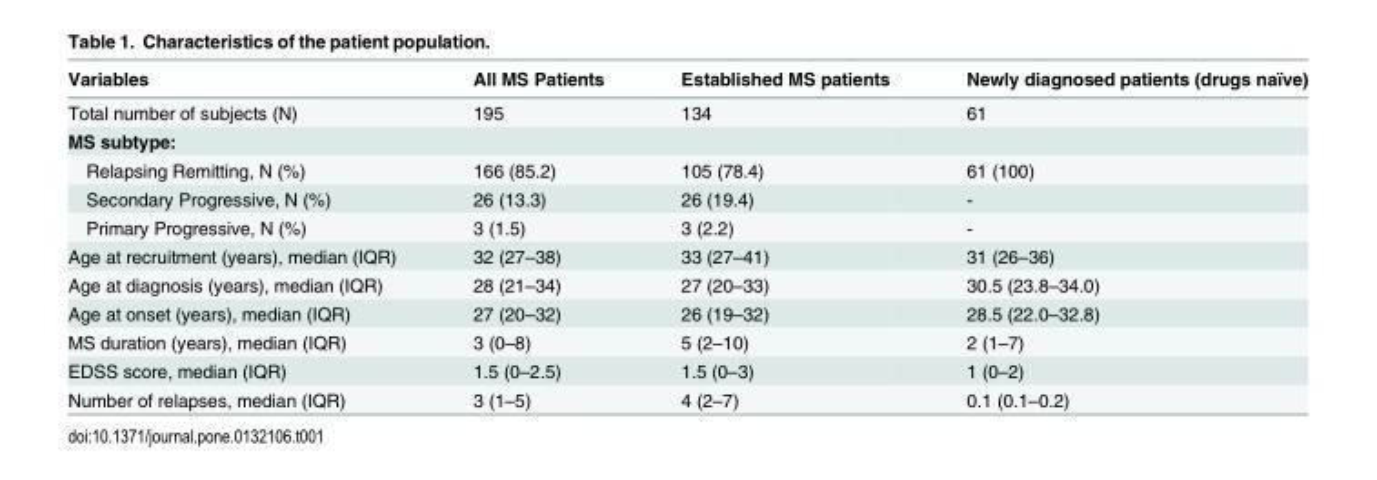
<table><thead><tr><td>Variables</td><td>All MS Patients</td><td>Established MS patients</td><td>Newly diagnosed patients (drugs naïve)</td></tr></thead><tbody><tr><td>Total number of subjects (N)</td><td>195</td><td>134</td><td>61</td></tr><tr><td colspan="4">MS subtype:</td></tr><tr><td>Relapsing Remitting, N (%)</td><td>166 (85.2)</td><td>105 (78.4)</td><td>61 (100)</td></tr><tr><td>Secondary Progressive, N (%)</td><td>26 (13.3)</td><td>26 (19.4)</td><td>-</td></tr><tr><td>Primary Progressive, N (%)</td><td>3 (1.5)</td><td>3 (2.2)</td><td>-</td></tr><tr><td>Age at recruitment (years), median (IQR)</td><td>32 (27–38)</td><td>33 (27–41)</td><td>31 (26–36)</td></tr><tr><td>Age at diagnosis (years), median (IQR)</td><td>28 (21–34)</td><td>27 (20–33)</td><td>30.5 (23.8–34.0)</td></tr><tr><td>Age at onset (years), median (IQR)</td><td>27 (20–32)</td><td>26 (19–32)</td><td>28.5 (22.0–32.8)</td></tr><tr><td>MS duration (years), median (IQR)</td><td>3 (0–8)</td><td>5 (2–10)</td><td>2 (1–7)</td></tr><tr><td>EDSS score, median (IQR)</td><td>1.5 (0–2.5)</td><td>1.5 (0–3)</td><td>1 (0–2)</td></tr><tr><td>Number of relapses, median (IQR)</td><td>3 (1–5)</td><td>4 (2–7)</td><td>0.1 (0.1–0.2)</td></tr></tbody></table>